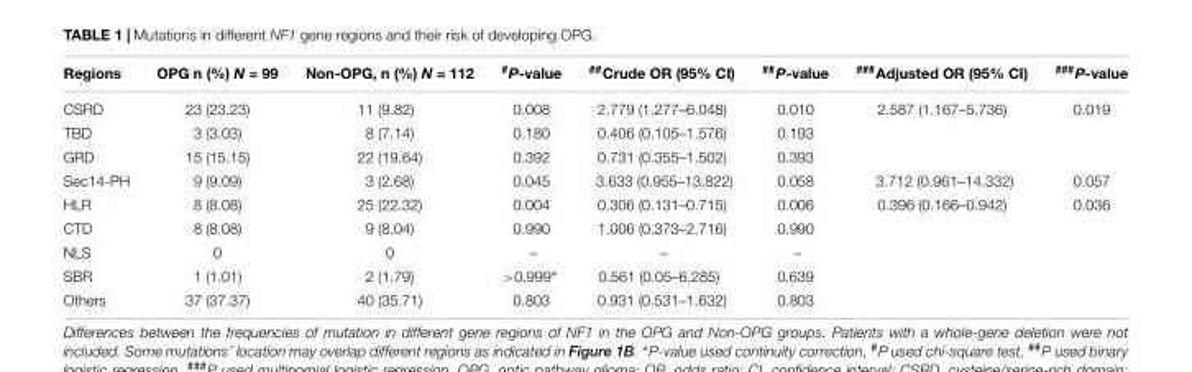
<table><thead><tr><td>Regions</td><td>OPG n (%) N = 99</td><td>Non-OPG, n (%) N = 112</td><td><sup>#</sup>P-value</td><td><sup>##</sup>Crude OR (95% CI)</td><td><sup>##</sup>P-value</td><td><sup>###</sup>Adjusted OR (95% CI)</td><td><sup>###</sup>P-value</td></tr></thead><tbody><tr><td>CSRD</td><td>23 (23.23)</td><td>11 (9.82)</td><td>0.008</td><td>2.779 (1.277–6.048)</td><td>0.010</td><td>2.587 (1.167–5.736)</td><td>0.019</td></tr><tr><td>TBD</td><td>3 (3.03)</td><td>8 (7.14)</td><td>0.180</td><td>0.406 (0.105–1.576)</td><td>0.193</td><td></td><td></td></tr><tr><td>GRD</td><td>15 (15.15)</td><td>22 (19.64)</td><td>0.392</td><td>0.731 (0.355–1.502)</td><td>0.393</td><td></td><td></td></tr><tr><td>Sec14-PH</td><td>9 (9.09)</td><td>3 (2.68)</td><td>0.045</td><td>3.633 (0.955–13.822)</td><td>0.058</td><td>3.712 (0.961–14.332)</td><td>0.057</td></tr><tr><td>HLR</td><td>8 (8.08)</td><td>25 (22.32)</td><td>0.004</td><td>0.306 (0.131–0.715)</td><td>0.006</td><td>0.396 (0.166–0.942)</td><td>0.036</td></tr><tr><td>CTD</td><td>8 (8.08)</td><td>9 (8.04)</td><td>0.990</td><td>1.006 (0.373–2.716)</td><td>0.990</td><td></td><td></td></tr><tr><td>NLS</td><td>0</td><td>0</td><td>–</td><td>–</td><td>–</td><td></td><td></td></tr><tr><td>SBR</td><td>1 (1.01)</td><td>2 (1.79)</td><td>&gt;0.999∗</td><td>0.561 (0.05–6.285)</td><td>0.639</td><td></td><td></td></tr><tr><td>Others</td><td>37 (37.37)</td><td>40 (35.71)</td><td>0.803</td><td>0.931 (0.531–1.632)</td><td>0.803</td><td></td><td></td></tr></tbody></table>